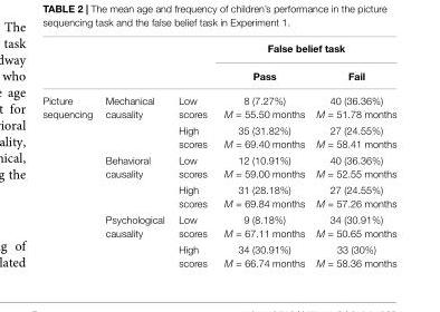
<table><thead><tr><td rowspan="2"></td><td rowspan="2"></td><td rowspan="2"></td><td colspan="2">False belief task</td></tr><tr><td>Pass</td><td>Fail</td></tr></thead><tbody><tr><td rowspan="6">Picture sequencing</td><td>Mechanical causality</td><td>Low scores</td><td>8 (7.27%) M = 55.50 months</td><td>40 (36.36%) M = 51.78 months</td></tr><tr><td></td><td>High scores</td><td>35 (31.82%) M = 69.40 months</td><td>27 (24.55%) M = 58.41 months</td></tr><tr><td>Behavioral causality</td><td>Low scores</td><td>12 (10.91%) M = 59.00 months</td><td>40 (36.36%) M = 52.55 months</td></tr><tr><td></td><td>High scores</td><td>31 (28.18%) M = 69.84 months</td><td>27 (24.55%) M = 57.26 months</td></tr><tr><td>Psychological causality</td><td>Low scores</td><td>9 (8.18%) M = 67.11 months</td><td>34 (30.91%) M = 50.65 months</td></tr><tr><td></td><td>High scores</td><td>34 (30.91%) M = 66.74 months</td><td>33 (30%) M = 58.36 months</td></tr></tbody></table>